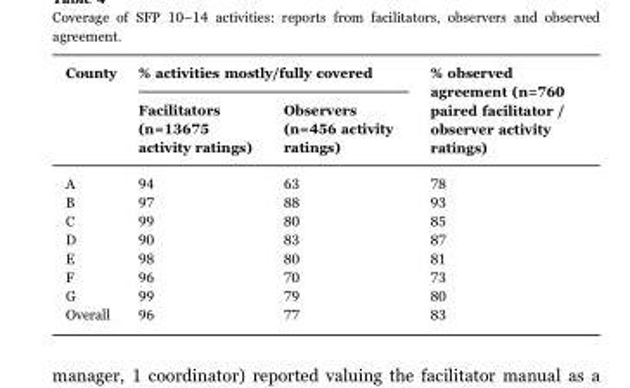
<table><thead><tr><td rowspan="2">County</td><td colspan="2">% activities mostly/fully covered</td><td rowspan="2">% observed agreement (n=760 paired facilitator / observer activity ratings)</td></tr><tr><td>Facilitators (n=13675 activity ratings)</td><td>Observers (n=456 activity ratings)</td></tr></thead><tbody><tr><td>A</td><td>94</td><td>63</td><td>78</td></tr><tr><td>B</td><td>97</td><td>88</td><td>93</td></tr><tr><td>C</td><td>99</td><td>80</td><td>85</td></tr><tr><td>D</td><td>90</td><td>83</td><td>87</td></tr><tr><td>E</td><td>98</td><td>80</td><td>81</td></tr><tr><td>F</td><td>96</td><td>70</td><td>73</td></tr><tr><td>G</td><td>99</td><td>79</td><td>80</td></tr><tr><td>Overall</td><td>96</td><td>77</td><td>83</td></tr></tbody></table>